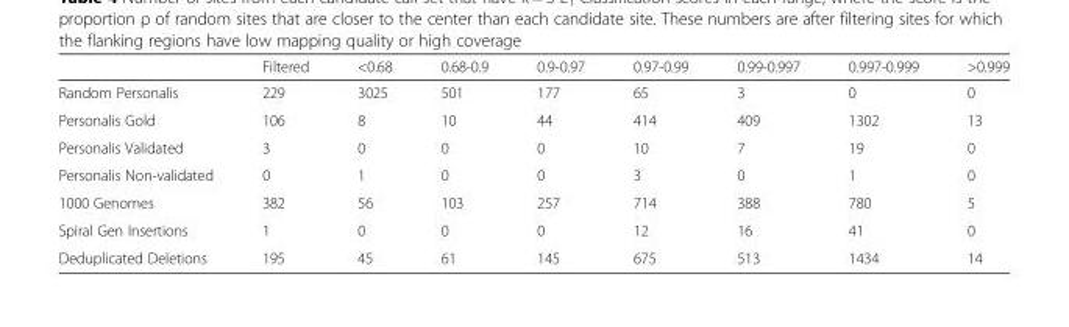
<table><thead><tr><td></td><td>Filtered</td><td>&lt;0.68</td><td>0.68-0.9</td><td>0.9-0.97</td><td>0.97-0.99</td><td>0.99-0.997</td><td>0.997-0.999</td><td>&gt;0.999</td></tr></thead><tbody><tr><td>Random Personalis</td><td>229</td><td>3025</td><td>501</td><td>177</td><td>65</td><td>3</td><td>0</td><td>0</td></tr><tr><td>Personalis Gold</td><td>106</td><td>8</td><td>10</td><td>44</td><td>414</td><td>409</td><td>1302</td><td>13</td></tr><tr><td>Personalis Validated</td><td>3</td><td>0</td><td>0</td><td>0</td><td>10</td><td>7</td><td>19</td><td>0</td></tr><tr><td>Personalis Non-validated</td><td>0</td><td>1</td><td>0</td><td>0</td><td>3</td><td>0</td><td>1</td><td>0</td></tr><tr><td>1000 Genomes</td><td>382</td><td>56</td><td>103</td><td>257</td><td>714</td><td>388</td><td>780</td><td>5</td></tr><tr><td>Spiral Gen Insertions</td><td>1</td><td>0</td><td>0</td><td>0</td><td>12</td><td>16</td><td>41</td><td>0</td></tr><tr><td>Deduplicated Deletions</td><td>195</td><td>45</td><td>61</td><td>145</td><td>675</td><td>513</td><td>1434</td><td>14</td></tr></tbody></table>